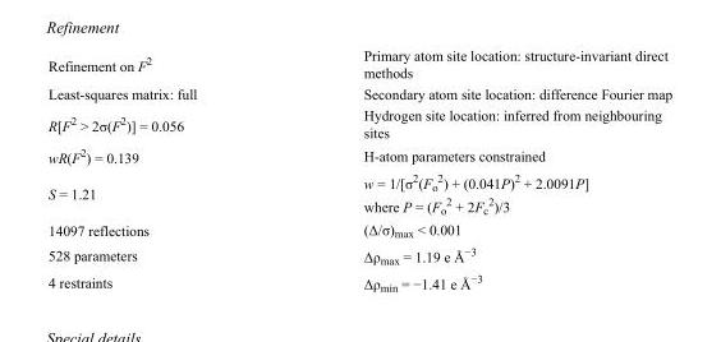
<table><tbody><tr><td>Refinement on F<sup>2</sup></td><td>Primary atom site location: structure-invariant direct methods</td></tr><tr><td>Least-squares matrix: full</td><td>Secondary atom site location: difference Fourier map</td></tr><tr><td>R[F<sup>2</sup> &gt; 2σ(F<sup>2</sup>)] = 0.056</td><td>Hydrogen site location: inferred from neighbouring sites</td></tr><tr><td>wR(F<sup>2</sup>) = 0.139</td><td>H-atom parameters constrained</td></tr><tr><td>S = 1.21</td><td>w = 1/[σ<sup>2</sup>(F<sub>o</sub> <sup>2</sup>) + (0.041P)<sup>2</sup> + 2.0091P] where P = (F<sub>o</sub> <sup>2</sup> + 2F<sub>c</sub> <sup>2</sup>)/3</td></tr><tr><td>14097 reflections</td><td>(Δ/σ)<sub>max</sub> &lt; 0.001</td></tr><tr><td>528 parameters</td><td>Δρ<sub>max</sub> = 1.19 e Å<sup>−3</sup></td></tr><tr><td>4 restraints</td><td>Δρ<sub>min</sub> = −1.41 e Å<sup>−3</sup></td></tr></tbody></table>